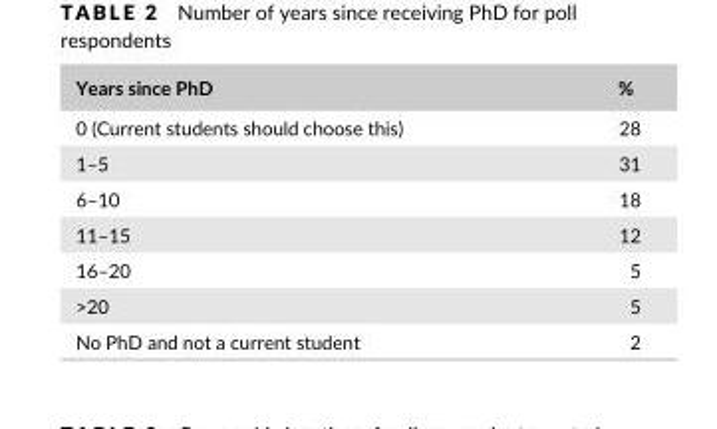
<table><thead><tr><td>Years since PhD</td><td>%</td></tr></thead><tbody><tr><td>0 (Current students should choose this)</td><td>28</td></tr><tr><td>1–5</td><td>31</td></tr><tr><td>6–10</td><td>18</td></tr><tr><td>11–15</td><td>12</td></tr><tr><td>16–20</td><td>5</td></tr><tr><td>&gt;20</td><td>5</td></tr><tr><td>No PhD and not a current student</td><td>2</td></tr></tbody></table>